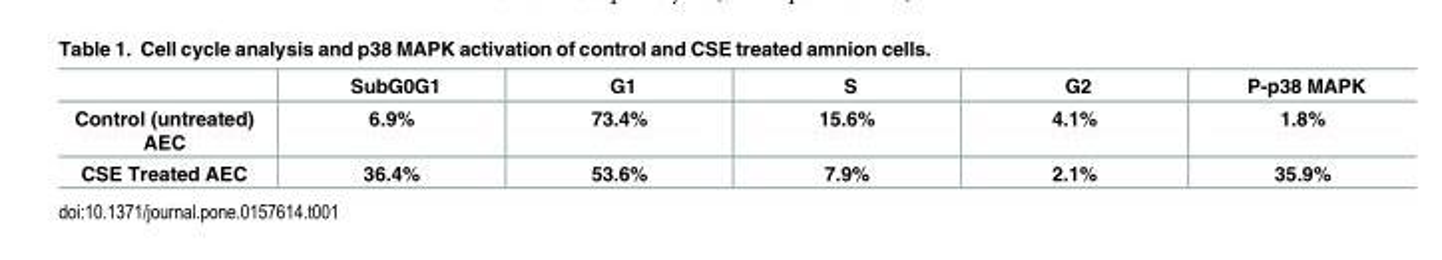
<table><thead><tr><td></td><td>SubG0G1</td><td>G1</td><td>S</td><td>G2</td><td>P-p38 MAPK</td></tr></thead><tbody><tr><td>Control (untreated) AEC</td><td>6.9%</td><td>73.4%</td><td>15.6%</td><td>4.1%</td><td>1.8%</td></tr><tr><td>CSE Treated AEC</td><td>36.4%</td><td>53.6%</td><td>7.9%</td><td>2.1%</td><td>35.9%</td></tr></tbody></table>